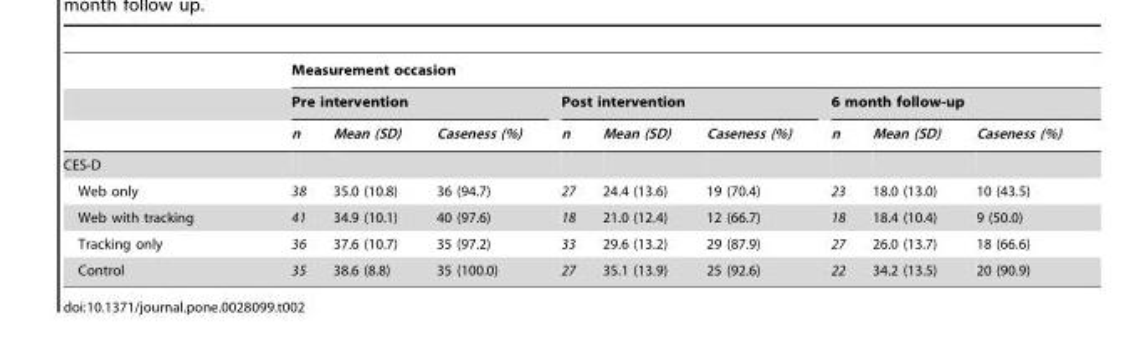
<table><thead><tr><td rowspan="3"></td><td colspan="9">Measurement occasion</td></tr><tr><td colspan="3">Pre intervention</td><td colspan="3">Post intervention</td><td colspan="3">6 month follow-up</td></tr><tr><td>n</td><td>Mean (SD)</td><td>Caseness (%)</td><td>n</td><td>Mean (SD)</td><td>Caseness (%)</td><td>n</td><td>Mean (SD)</td><td>Caseness (%)</td></tr></thead><tbody><tr><td colspan="10">CES-D</td></tr><tr><td>Web only</td><td>38</td><td>35.0 (10.8)</td><td>36 (94.7)</td><td>27</td><td>24.4 (13.6)</td><td>19 (70.4)</td><td>23</td><td>18.0 (13.0)</td><td>10 (43.5)</td></tr><tr><td>Web with tracking</td><td>41</td><td>34.9 (10.1)</td><td>40 (97.6)</td><td>18</td><td>21.0 (12.4)</td><td>12 (66.7)</td><td>18</td><td>18.4 (10.4)</td><td>9 (50.0)</td></tr><tr><td>Tracking only</td><td>36</td><td>37.6 (10.7)</td><td>35 (97.2)</td><td>33</td><td>29.6 (13.2)</td><td>29 (87.9)</td><td>27</td><td>26.0 (13.7)</td><td>18 (66.6)</td></tr><tr><td>Control</td><td>35</td><td>38.6 (8.8)</td><td>35 (100.0)</td><td>27</td><td>35.1 (13.9)</td><td>25 (92.6)</td><td>22</td><td>34.2 (13.5)</td><td>20 (90.9)</td></tr></tbody></table>